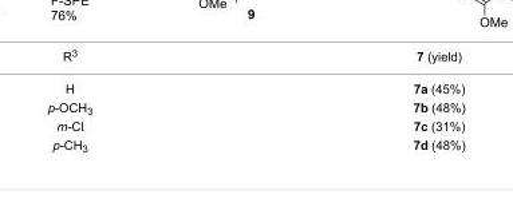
<table><tbody><tr><td>R<sup>3</sup></td><td>7 (yield)</td></tr><tr><td>H</td><td>7a (45%)</td></tr><tr><td>p-OCH<sub>3</sub></td><td>7b (48%)</td></tr><tr><td>m-Cl</td><td>7c (31%)</td></tr><tr><td>p-CH<sub>3</sub></td><td>7d (48%)</td></tr></tbody></table>